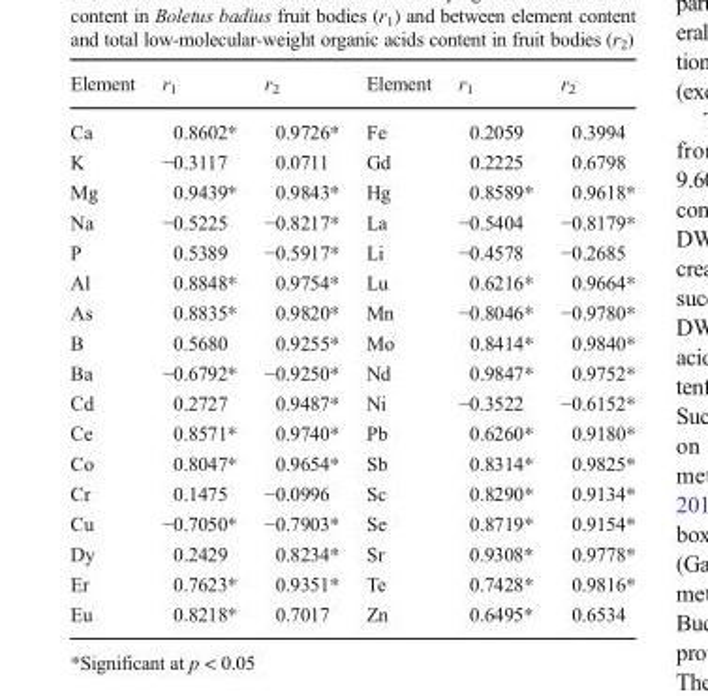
<table><thead><tr><td>Element</td><td>r<sub>1</sub></td><td>r<sub>2</sub></td><td>Element</td><td>r<sub>1</sub></td><td>r<sub>2</sub></td></tr></thead><tbody><tr><td>Ca</td><td>0.8602*</td><td>0.9726*</td><td>Fe</td><td>0.2059</td><td>0.3994</td></tr><tr><td>K</td><td>−0.3117</td><td>0.0711</td><td>Gd</td><td>0.2225</td><td>0.6798</td></tr><tr><td>Mg</td><td>0.9439*</td><td>0.9843*</td><td>Hg</td><td>0.8589*</td><td>0.9618*</td></tr><tr><td>Na</td><td>−0.5225</td><td>−0.8217*</td><td>La</td><td>−0.5404</td><td>−0.8179*</td></tr><tr><td>P</td><td>0.5389</td><td>−0.5917*</td><td>Li</td><td>−0.4578</td><td>−0.2685</td></tr><tr><td>Al</td><td>0.8848*</td><td>0.9754*</td><td>Lu</td><td>0.6216*</td><td>0.9664*</td></tr><tr><td>As</td><td>0.8835*</td><td>0.9820*</td><td>Mn</td><td>−0.8046*</td><td>−0.9780*</td></tr><tr><td>B</td><td>0.5680</td><td>0.9255*</td><td>Mo</td><td>0.8414*</td><td>0.9840*</td></tr><tr><td>Ba</td><td>−0.6792*</td><td>−0.9250*</td><td>Nd</td><td>0.9847*</td><td>0.9752*</td></tr><tr><td>Cd</td><td>0.2727</td><td>0.9487*</td><td>Ni</td><td>−0.3522</td><td>−0.6152*</td></tr><tr><td>Ce</td><td>0.8571*</td><td>0.9740*</td><td>Pb</td><td>0.6260*</td><td>0.9180*</td></tr><tr><td>Co</td><td>0.8047*</td><td>0.9654*</td><td>Sb</td><td>0.8314*</td><td>0.9825*</td></tr><tr><td>Cr</td><td>0.1475</td><td>−0.0996</td><td>Sc</td><td>0.8290*</td><td>0.9134*</td></tr><tr><td>Cu</td><td>−0.7050*</td><td>−0.7903*</td><td>Se</td><td>0.8719*</td><td>0.9154*</td></tr><tr><td>Dy</td><td>0.2429</td><td>0.8234*</td><td>Sr</td><td>0.9308*</td><td>0.9778*</td></tr><tr><td>Er</td><td>0.7623*</td><td>0.9351*</td><td>Te</td><td>0.7428*</td><td>0.9816*</td></tr><tr><td>Eu</td><td>0.8218*</td><td>0.7017</td><td>Zn</td><td>0.6495*</td><td>0.6534</td></tr></tbody></table>